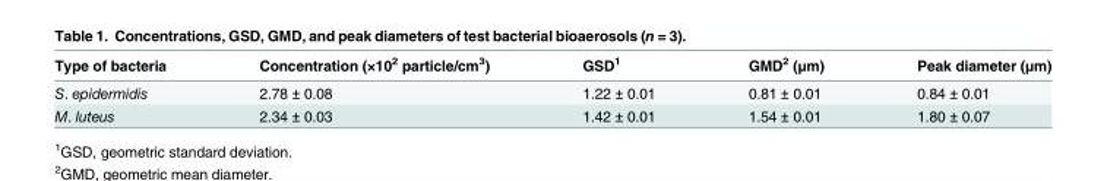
<table><thead><tr><td>Type of bacteria</td><td>Concentration (×10<sup>2</sup> particle/cm<sup>3</sup>)</td><td>GSD<sup>1</sup></td><td>GMD<sup>2</sup> (μm)</td><td>Peak diameter (μm)</td></tr></thead><tbody><tr><td>S. epidermidis</td><td>2.78 ± 0.08</td><td>1.22 ± 0.01</td><td>0.81 ± 0.01</td><td>0.84 ± 0.01</td></tr><tr><td>M. luteus</td><td>2.34 ± 0.03</td><td>1.42 ± 0.01</td><td>1.54 ± 0.01</td><td>1.80 ± 0.07</td></tr></tbody></table>